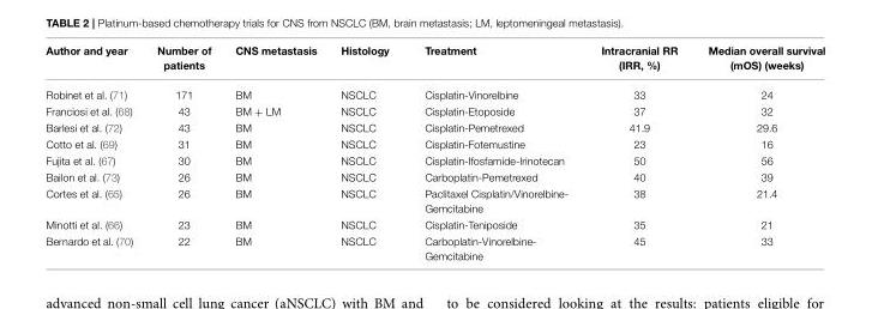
<table><thead><tr><td>Author and year</td><td>Number of patients</td><td>CNS metastasis</td><td>Histology</td><td>Treatment</td><td>Intracranial RR (IRR, %)</td><td>Median overall survival (mOS) (weeks)</td></tr></thead><tbody><tr><td>Robinet et al. (71)</td><td>171</td><td>BM</td><td>NSCLC</td><td>Cisplatin-Vinorelbine</td><td>33</td><td>24</td></tr><tr><td>Franciosi et al. (68)</td><td>43</td><td>BM + LM</td><td>NSCLC</td><td>Cisplatin-Etoposide</td><td>37</td><td>32</td></tr><tr><td>Barlesi et al. (72)</td><td>43</td><td>BM</td><td>NSCLC</td><td>Cisplatin-Pemetrexed</td><td>41.9</td><td>29.6</td></tr><tr><td>Cotto et al. (69)</td><td>31</td><td>BM</td><td>NSCLC</td><td>Cisplatin-Fotemustine</td><td>23</td><td>16</td></tr><tr><td>Fujita et al. (67)</td><td>30</td><td>BM</td><td>NSCLC</td><td>Cisplatin-Ifosfamide-Irinotecan</td><td>50</td><td>56</td></tr><tr><td>Bailon et al. (73)</td><td>26</td><td>BM</td><td>NSCLC</td><td>Carboplatin-Pemetrexed</td><td>40</td><td>39</td></tr><tr><td>Cortes et al. (65)</td><td>26</td><td>BM</td><td>NSCLC</td><td>Paclitaxel Cisplatin/Vinorelbine- Gemcitabine</td><td>38</td><td>21.4</td></tr><tr><td>Minotti et al. (66)</td><td>23</td><td>BM</td><td>NSCLC</td><td>Cisplatin-Teniposide</td><td>35</td><td>21</td></tr><tr><td>Bernardo et al. (70)</td><td>22</td><td>BM</td><td>NSCLC</td><td>Carboplatin-Vinorelbine- Gemcitabine</td><td>45</td><td>33</td></tr></tbody></table>